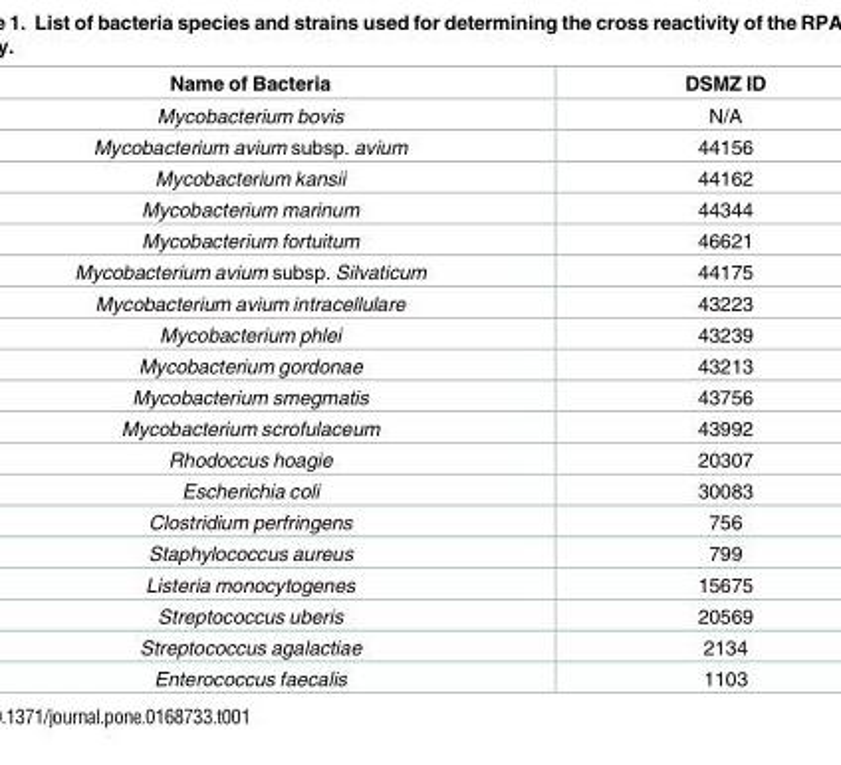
<table><thead><tr><td>Name of Bacteria</td><td>DSMZ ID</td></tr></thead><tbody><tr><td>Mycobacterium bovis</td><td>N/A</td></tr><tr><td>Mycobacterium avium subsp. avium</td><td>44156</td></tr><tr><td>Mycobacterium kansii</td><td>44162</td></tr><tr><td>Mycobacterium marinum</td><td>44344</td></tr><tr><td>Mycobacterium fortuitum</td><td>46621</td></tr><tr><td>Mycobacterium avium subsp. Silvaticum</td><td>44175</td></tr><tr><td>Mycobacterium avium intracellulare</td><td>43223</td></tr><tr><td>Mycobacterium phlei</td><td>43239</td></tr><tr><td>Mycobacterium gordonae</td><td>43213</td></tr><tr><td>Mycobacterium smegmatis</td><td>43756</td></tr><tr><td>Mycobacterium scrofulaceum</td><td>43992</td></tr><tr><td>Rhodoccus hoagie</td><td>20307</td></tr><tr><td>Escherichia coli</td><td>30083</td></tr><tr><td>Clostridium perfringens</td><td>756</td></tr><tr><td>Staphylococcus aureus</td><td>799</td></tr><tr><td>Listeria monocytogenes</td><td>15675</td></tr><tr><td>Streptococcus uberis</td><td>20569</td></tr><tr><td>Streptococcus agalactiae</td><td>2134</td></tr><tr><td>Enterococcus faecalis</td><td>1103</td></tr></tbody></table>